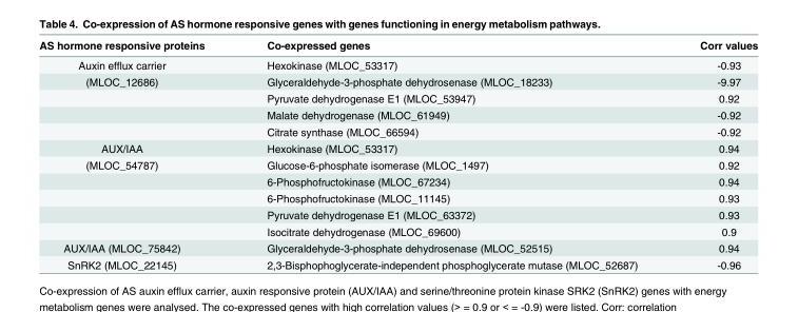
<table><thead><tr><td>AS hormone responsive proteins</td><td>Co-expressed genes</td><td>Corr values</td></tr></thead><tbody><tr><td>Auxin efflux carrier</td><td>Hexokinase (MLOC_53317)</td><td>-0.93</td></tr><tr><td rowspan="4">(MLOC_12686)</td><td>Glyceraldehyde-3-phosphate dehydrosenase (MLOC_18233)</td><td>-9.97</td></tr><tr><td>Pyruvate dehydrogenase E1 (MLOC_53947)</td><td>0.92</td></tr><tr><td>Malate dehydrogenase (MLOC_61949)</td><td>-0.92</td></tr><tr><td>Citrate synthase (MLOC_66594)</td><td>-0.92</td></tr><tr><td>AUX/IAA</td><td>Hexokinase (MLOC_53317)</td><td>0.94</td></tr><tr><td rowspan="5">(MLOC_54787)</td><td>Glucose-6-phosphate isomerase (MLOC_1497)</td><td>0.92</td></tr><tr><td>6-Phosphofructokinase (MLOC_67234)</td><td>0.94</td></tr><tr><td>6-Phosphofructokinase (MLOC_11145)</td><td>0.93</td></tr><tr><td>Pyruvate dehydrogenase E1 (MLOC_63372)</td><td>0.93</td></tr><tr><td>Isocitrate dehydrogenase (MLOC_69600)</td><td>0.9</td></tr><tr><td>AUX/IAA (MLOC_75842)</td><td>Glyceraldehyde-3-phosphate dehydrosenase (MLOC_52515)</td><td>0.94</td></tr><tr><td>SnRK2 (MLOC_22145)</td><td>2,3-Bisphophoglycerate-independent phosphoglycerate mutase (MLOC_52687)</td><td>-0.96</td></tr></tbody></table>